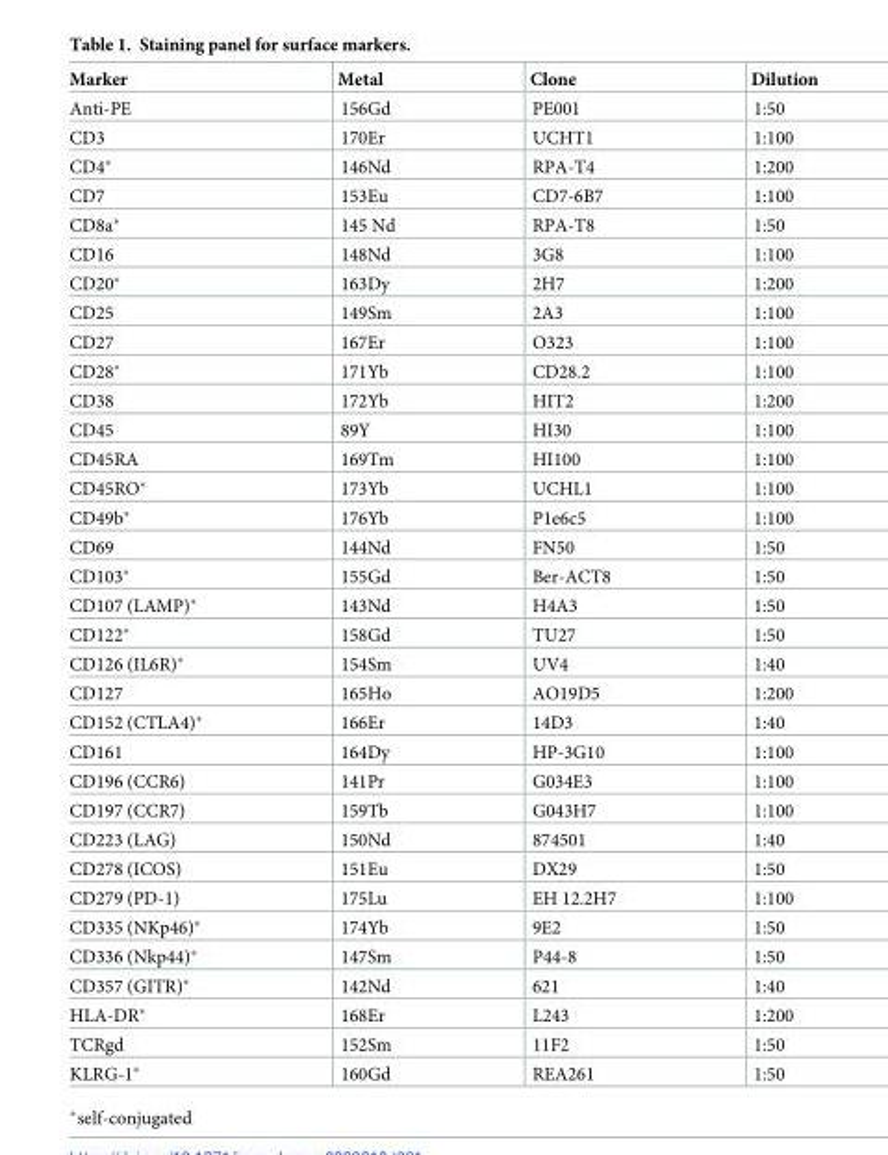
<table><thead><tr><td>Marker</td><td>Metal</td><td>Clone</td><td>Dilution</td></tr></thead><tbody><tr><td>Anti-PE</td><td>156Gd</td><td>PE001</td><td>1:50</td></tr><tr><td>CD3</td><td>170Er</td><td>UCHT1</td><td>1:100</td></tr><tr><td>CD4*</td><td>146Nd</td><td>RPA-T4</td><td>1:200</td></tr><tr><td>CD7</td><td>153Eu</td><td>CD7-6B7</td><td>1:100</td></tr><tr><td>CD8a*</td><td>145 Nd</td><td>RPA-T8</td><td>1:50</td></tr><tr><td>CD16</td><td>148Nd</td><td>3G8</td><td>1:100</td></tr><tr><td>CD20*</td><td>163Dy</td><td>2H7</td><td>1:200</td></tr><tr><td>CD25</td><td>149Sm</td><td>2A3</td><td>1:100</td></tr><tr><td>CD27</td><td>167Er</td><td>O323</td><td>1:100</td></tr><tr><td>CD28*</td><td>171Yb</td><td>CD28.2</td><td>1:100</td></tr><tr><td>CD38</td><td>172Yb</td><td>HIT2</td><td>1:200</td></tr><tr><td>CD45</td><td>89Y</td><td>HI30</td><td>1:100</td></tr><tr><td>CD45RA</td><td>169Tm</td><td>HI100</td><td>1:100</td></tr><tr><td>CD45RO*</td><td>173Yb</td><td>UCHL1</td><td>1:100</td></tr><tr><td>CD49b*</td><td>176Yb</td><td>P1e6c5</td><td>1:100</td></tr><tr><td>CD69</td><td>144Nd</td><td>FN50</td><td>1:50</td></tr><tr><td>CD103*</td><td>155Gd</td><td>Ber-ACT8</td><td>1:50</td></tr><tr><td>CD107 (LAMP)*</td><td>143Nd</td><td>H4A3</td><td>1:50</td></tr><tr><td>CD122*</td><td>158Gd</td><td>TU27</td><td>1:50</td></tr><tr><td>CD126 (IL6R)*</td><td>154Sm</td><td>UV4</td><td>1:40</td></tr><tr><td>CD127</td><td>165Ho</td><td>AO19D5</td><td>1:200</td></tr><tr><td>CD152 (CTLA4)*</td><td>166Er</td><td>14D3</td><td>1:40</td></tr><tr><td>CD161</td><td>164Dy</td><td>HP-3G10</td><td>1:100</td></tr><tr><td>CD196 (CCR6)</td><td>141Pr</td><td>G034E3</td><td>1:100</td></tr><tr><td>CD197 (CCR7)</td><td>159Tb</td><td>G043H7</td><td>1:100</td></tr><tr><td>CD223 (LAG)</td><td>150Nd</td><td>874501</td><td>1:40</td></tr><tr><td>CD278 (ICOS)</td><td>151Eu</td><td>DX29</td><td>1:50</td></tr><tr><td>CD279 (PD-1)</td><td>175Lu</td><td>EH 12.2H7</td><td>1:100</td></tr><tr><td>CD335 (NKp46)*</td><td>174Yb</td><td>9E2</td><td>1:50</td></tr><tr><td>CD336 (Nkp44)*</td><td>147Sm</td><td>P44-8</td><td>1:50</td></tr><tr><td>CD357 (GITR)*</td><td>142Nd</td><td>621</td><td>1:40</td></tr><tr><td>HLA-DR*</td><td>168Er</td><td>L243</td><td>1:200</td></tr><tr><td>TCRgd</td><td>152Sm</td><td>11F2</td><td>1:50</td></tr><tr><td>KLRG-1*</td><td>160Gd</td><td>REA261</td><td>1:50</td></tr></tbody></table>